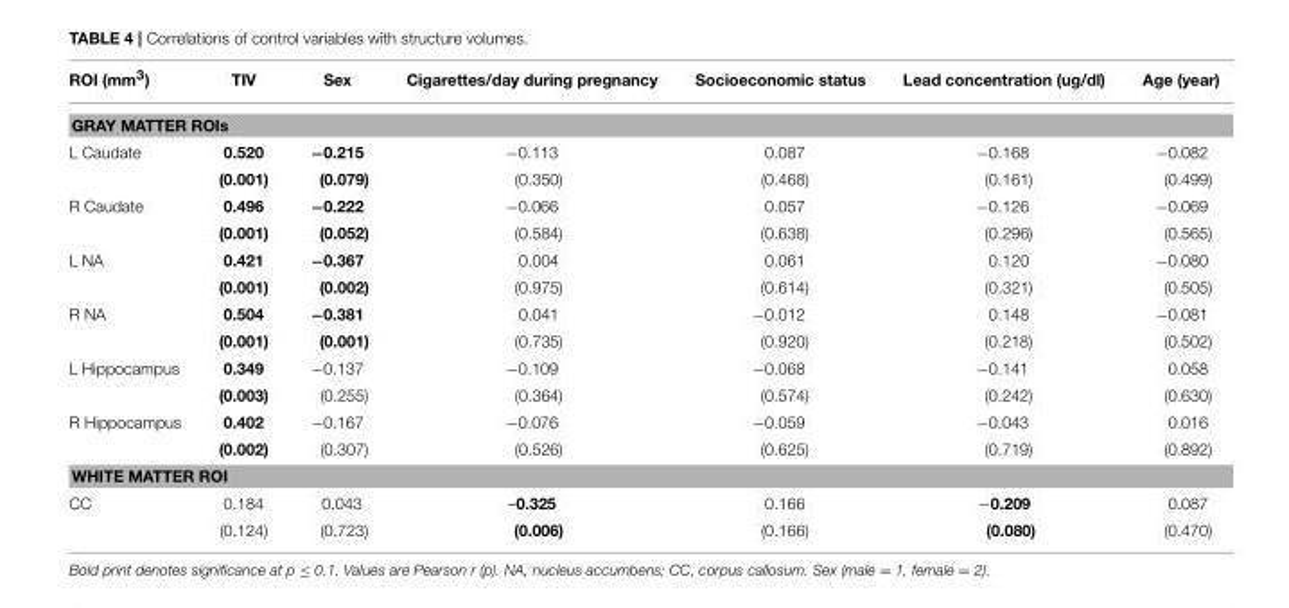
<table><thead><tr><td>ROI (mm<sup>3</sup>)</td><td>TIV</td><td>Sex</td><td>Cigarettes/day during pregnancy</td><td>Socioeconomic status</td><td>Lead concentration (ug/dl)</td><td>Age (year)</td></tr></thead><tbody><tr><td colspan="7">GRAY MATTER ROIs</td></tr><tr><td rowspan="2">L Caudate</td><td>0.520</td><td>−0.215</td><td>−0.113</td><td>0.087</td><td>−0.168</td><td>−0.082</td></tr><tr><td>(0.001)</td><td>(0.079)</td><td>(0.350)</td><td>(0.468)</td><td>(0.161)</td><td>(0.499)</td></tr><tr><td rowspan="2">R Caudate</td><td>0.496</td><td>−0.222</td><td>−0.066</td><td>0.057</td><td>−0.126</td><td>−0.069</td></tr><tr><td>(0.001)</td><td>(0.052)</td><td>(0.584)</td><td>(0.638)</td><td>(0.296)</td><td>(0.565)</td></tr><tr><td rowspan="2">L NA</td><td>0.421</td><td>−0.367</td><td>0.004</td><td>0.061</td><td>0.120</td><td>−0.080</td></tr><tr><td>(0.001)</td><td>(0.002)</td><td>(0.975)</td><td>(0.614)</td><td>(0.321)</td><td>(0.505)</td></tr><tr><td rowspan="2">R NA</td><td>0.504</td><td>−0.381</td><td>0.041</td><td>−0.012</td><td>0.148</td><td>−0.081</td></tr><tr><td>(0.001)</td><td>(0.001)</td><td>(0.735)</td><td>(0.920)</td><td>(0.218)</td><td>(0.502)</td></tr><tr><td rowspan="2">L Hippocampus</td><td>0.349</td><td>−0.137</td><td>−0.109</td><td>−0.068</td><td>−0.141</td><td>0.058</td></tr><tr><td>(0.003)</td><td>(0.255)</td><td>(0.364)</td><td>(0.574)</td><td>(0.242)</td><td>(0.630)</td></tr><tr><td rowspan="2">R Hippocampus</td><td>0.402</td><td>−0.167</td><td>−0.076</td><td>−0.059</td><td>−0.043</td><td>0.016</td></tr><tr><td>(0.002)</td><td>(0.307)</td><td>(0.526)</td><td>(0.625)</td><td>(0.719)</td><td>(0.892)</td></tr><tr><td colspan="7">WHITE MATTER ROI</td></tr><tr><td rowspan="2">CC</td><td>0.184</td><td>0.043</td><td>–0.325</td><td>0.166</td><td>−0.209</td><td>0.087</td></tr><tr><td>(0.124)</td><td>(0.723)</td><td>(0.006)</td><td>(0.166)</td><td>(0.080)</td><td>(0.470)</td></tr></tbody></table>